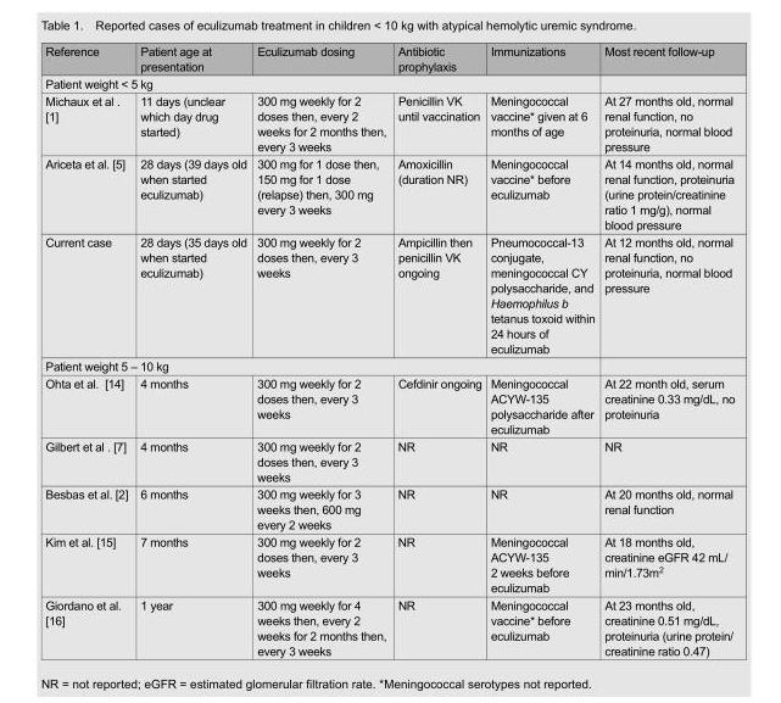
<table><thead><tr><td>Reference</td><td>Patient age at presentation</td><td>Eculizumab dosing</td><td>Antibiotic prophylaxis</td><td>Immunizations</td><td>Most recent follow-up</td></tr></thead><tbody><tr><td colspan="6">Patient weight &lt; 5 kg</td></tr><tr><td>Michaux et al . [1]</td><td>11 days (unclear which day drug started)</td><td>300 mg weekly for 2 doses then, every 2 weeks for 2 months then, every 3 weeks</td><td>Penicillin VK until vaccination</td><td>Meningococcal vaccine* given at 6 months of age</td><td>At 27 months old, normal renal function, no proteinuria, normal blood pressure</td></tr><tr><td>Ariceta et al. [5]</td><td>28 days (39 days old when started eculizumab)</td><td>300 mg for 1 dose then, 150 mg for 1 dose (relapse) then, 300 mg every 3 weeks</td><td>Amoxicillin (duration NR)</td><td>Meningococcal vaccine* before eculizumab</td><td>At 14 months old, normal renal function, proteinuria (urine protein/creatinine ratio 1 mg/g), normal blood pressure</td></tr><tr><td>Current case</td><td>28 days (35 days old when started eculizumab)</td><td>300 mg weekly for 2 doses then, every 3 weeks</td><td>Ampicillin then penicillin VK ongoing</td><td>Pneumococcal-13 conjugate, meningococcal CY polysaccharide, and Haemophilus b tetanus toxoid within 24 hours of eculizumab</td><td>At 12 months old, normal renal function, no proteinuria, normal blood pressure</td></tr><tr><td colspan="6">Patient weight 5 – 10 kg</td></tr><tr><td>Ohta et al. [14]</td><td>4 months</td><td>300 mg weekly for 2 doses then, every 3 weeks</td><td>Cefdinir ongoing</td><td>Meningococcal ACYW-135 polysaccharide after eculizumab</td><td>At 22 month old, serum creatinine 0.33 mg/dL, no proteinuria</td></tr><tr><td>Gilbert et al . [7]</td><td>4 months</td><td>300 mg weekly for 2 doses then, every 3 weeks</td><td>NR</td><td>NR</td><td>NR</td></tr><tr><td>Besbas et al. [2]</td><td>6 months</td><td>300 mg weekly for 3 weeks then, 600 mg every 2 weeks</td><td>NR</td><td>NR</td><td>At 20 months old, normal renal function</td></tr><tr><td>Kim et al. [15]</td><td>7 months</td><td>300 mg weekly for 2 doses then, every 3 weeks</td><td>NR</td><td>Meningococcal ACYW-135 2 weeks before eculizumab</td><td>At 18 months old, creatinine eGFR 42 mL/ min/1.73m<sup>2</sup></td></tr><tr><td>Giordano et al. [16]</td><td>1 year</td><td>300 mg weekly for 4 weeks then, every 2 weeks for 2 months then, every 3 weeks</td><td>NR</td><td>Meningococcal vaccine* before eculizumab</td><td>At 23 months old, creatinine 0.51 mg/dL, proteinuria (urine protein/ creatinine ratio 0.47)</td></tr></tbody></table>